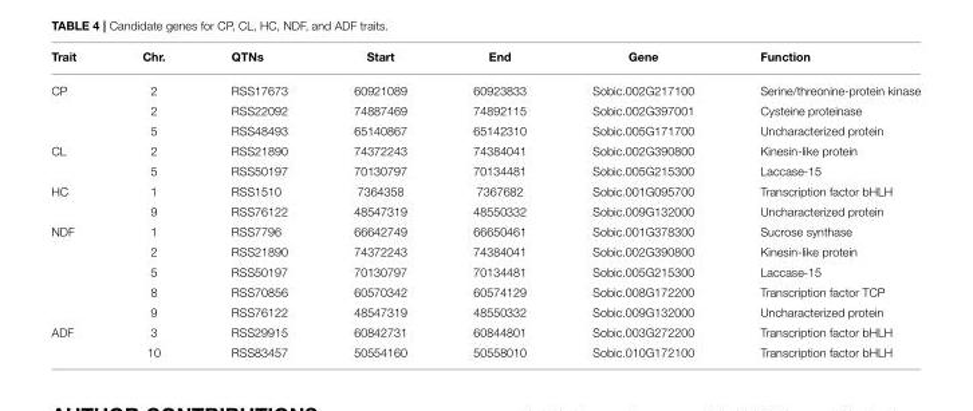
<table><thead><tr><td>Trait</td><td>Chr.</td><td>QTNs</td><td>Start</td><td>End</td><td>Gene</td><td>Function</td></tr></thead><tbody><tr><td rowspan="3">CP</td><td>2</td><td>RSS17673</td><td>60921089</td><td>60923833</td><td>Sobic.002G217100</td><td>Serine/threonine-protein kinase</td></tr><tr><td>2</td><td>RSS22092</td><td>74887469</td><td>74892115</td><td>Sobic.002G397001</td><td>Cysteine proteinase</td></tr><tr><td>5</td><td>RSS48493</td><td>65140867</td><td>65142310</td><td>Sobic.005G171700</td><td>Uncharacterized protein</td></tr><tr><td rowspan="2">CL</td><td>2</td><td>RSS21890</td><td>74372243</td><td>74384041</td><td>Sobic.002G390800</td><td>Kinesin-like protein</td></tr><tr><td>5</td><td>RSS50197</td><td>70130797</td><td>70134481</td><td>Sobic.005G215300</td><td>Laccase-15</td></tr><tr><td rowspan="2">HC</td><td>1</td><td>RSS1510</td><td>7364358</td><td>7367682</td><td>Sobic.001G095700</td><td>Transcription factor bHLH</td></tr><tr><td>9</td><td>RSS76122</td><td>48547319</td><td>48550332</td><td>Sobic.009G132000</td><td>Uncharacterized protein</td></tr><tr><td rowspan="5">NDF</td><td>1</td><td>RSS7796</td><td>66642749</td><td>66650461</td><td>Sobic.001G378300</td><td>Sucrose synthase</td></tr><tr><td>2</td><td>RSS21890</td><td>74372243</td><td>74384041</td><td>Sobic.002G390800</td><td>Kinesin-like protein</td></tr><tr><td>5</td><td>RSS50197</td><td>70130797</td><td>70134481</td><td>Sobic.005G215300</td><td>Laccase-15</td></tr><tr><td>8</td><td>RSS70856</td><td>60570342</td><td>60574129</td><td>Sobic.008G172200</td><td>Transcription factor TCP</td></tr><tr><td>9</td><td>RSS76122</td><td>48547319</td><td>48550332</td><td>Sobic.009G132000</td><td>Uncharacterized protein</td></tr><tr><td rowspan="2">ADF</td><td>3</td><td>RSS29915</td><td>60842731</td><td>60844801</td><td>Sobic.003G272200</td><td>Transcription factor bHLH</td></tr><tr><td>10</td><td>RSS83457</td><td>50554160</td><td>50558010</td><td>Sobic.010G172100</td><td>Transcription factor bHLH</td></tr></tbody></table>